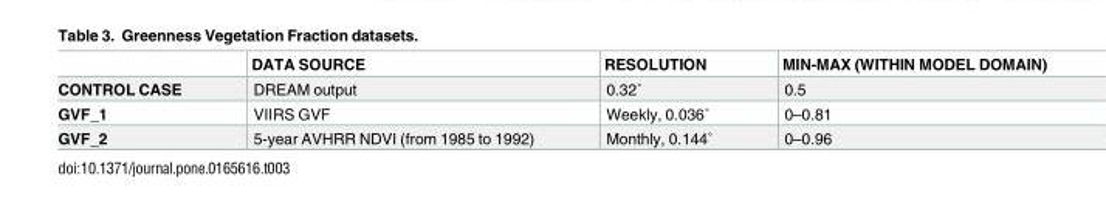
<table><thead><tr><td></td><td>DATA SOURCE</td><td>RESOLUTION</td><td>MIN-MAX (WITHIN MODEL DOMAIN)</td></tr></thead><tbody><tr><td>CONTROL CASE</td><td>DREAM output</td><td>0.32˚</td><td>0.5</td></tr><tr><td>GVF_1</td><td>VIIRS GVF</td><td>Weekly, 0.036˚</td><td>0–0.81</td></tr><tr><td>GVF_2</td><td>5-year AVHRR NDVI (from 1985 to 1992)</td><td>Monthly, 0.144˚</td><td>0–0.96</td></tr></tbody></table>